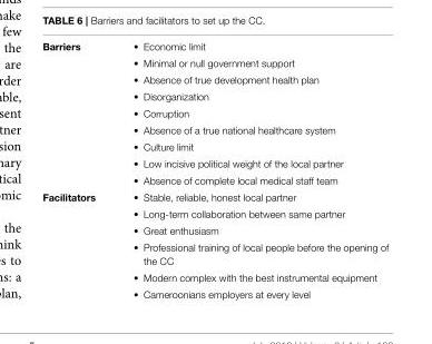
<table><tbody><tr><td rowspan="9">Barriers</td><td>• Economic limit</td></tr><tr><td>• Minimal or null government support</td></tr><tr><td>• Absence of true development health plan</td></tr><tr><td>• Disorganization</td></tr><tr><td>• Corruption</td></tr><tr><td>• Absence of a true national healthcare system</td></tr><tr><td>• Culture limit</td></tr><tr><td>• Low incisive political weight of the local partner</td></tr><tr><td>• Absence of complete local medical staff team</td></tr><tr><td rowspan="6">Facilitators</td><td>• Stable, reliable, honest local partner</td></tr><tr><td>• Long-term collaboration between same partner</td></tr><tr><td>• Great enthusiasm</td></tr><tr><td>• Professional training of local people before the opening of the CC</td></tr><tr><td>• Modern complex with the best instrumental equipment</td></tr><tr><td>• Cameroonians employers at every level</td></tr></tbody></table>